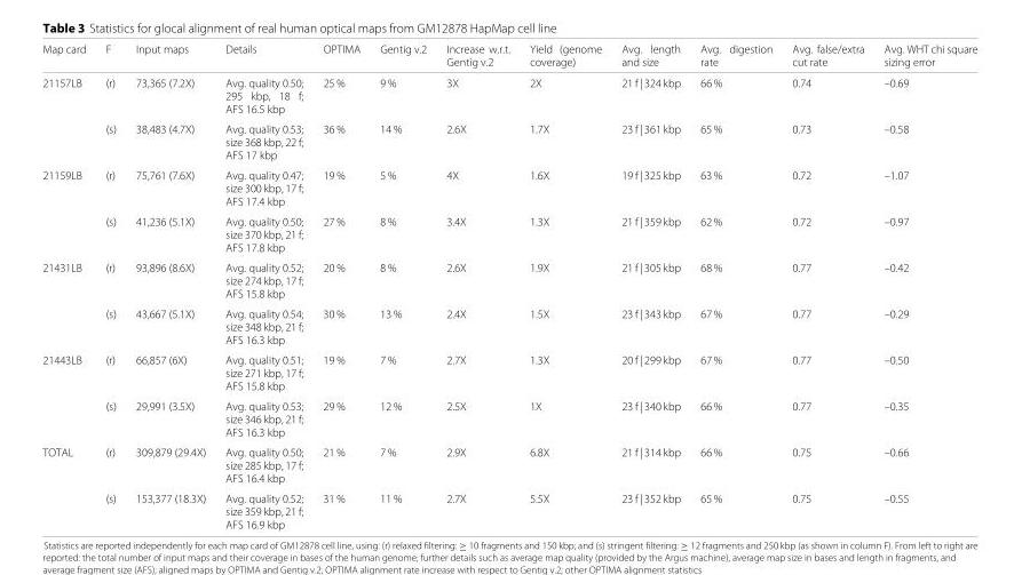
<table><thead><tr><td>Map card</td><td>F</td><td>Input maps</td><td>Details</td><td>OPTIMA</td><td>Gentig v.2</td><td>Increase w.r.t. Gentig v.2</td><td>Yield (genome coverage)</td><td>Avg. length and size</td><td>Avg. digestion rate</td><td>Avg. false/extra cut rate</td><td>Avg. WHT chi square sizing error</td></tr></thead><tbody><tr><td rowspan="2">21157LB</td><td>(r)</td><td>73,365 (7.2X)</td><td>Avg. quality 0.50; 295 kbp, 18 f; AFS 16.5 kbp</td><td>25 %</td><td>9 %</td><td>3X</td><td>2X</td><td>21 f | 324 kbp</td><td>66 %</td><td>0.74</td><td>–0.69</td></tr><tr><td>(s)</td><td>38,483 (4.7X)</td><td>Avg. quality 0.53; size 368 kbp, 22 f; AFS 17 kbp</td><td>36 %</td><td>14 %</td><td>2.6X</td><td>1.7X</td><td>23 f | 361 kbp</td><td>65 %</td><td>0.73</td><td>–0.58</td></tr><tr><td rowspan="2">21159LB</td><td>(r)</td><td>75,761 (7.6X)</td><td>Avg. quality 0.47; size 300 kbp, 17 f; AFS 17.4 kbp</td><td>19 %</td><td>5 %</td><td>4X</td><td>1.6X</td><td>19 f | 325 kbp</td><td>63 %</td><td>0.72</td><td>–1.07</td></tr><tr><td>(s)</td><td>41,236 (5.1X)</td><td>Avg. quality 0.50; size 370 kbp, 21 f; AFS 17.8 kbp</td><td>27 %</td><td>8 %</td><td>3.4X</td><td>1.3X</td><td>21 f | 359 kbp</td><td>62 %</td><td>0.72</td><td>–0.97</td></tr><tr><td rowspan="2">21431LB</td><td>(r)</td><td>93,896 (8.6X)</td><td>Avg. quality 0.52; size 274 kbp, 17 f; AFS 15.8 kbp</td><td>20 %</td><td>8 %</td><td>2.6X</td><td>1.9X</td><td>21 f | 305 kbp</td><td>68 %</td><td>0.77</td><td>–0.42</td></tr><tr><td>(s)</td><td>43,667 (5.1X)</td><td>Avg. quality 0.54; size 348 kbp, 21 f; AFS 16.3 kbp</td><td>30 %</td><td>13 %</td><td>2.4X</td><td>1.5X</td><td>23 f | 343 kbp</td><td>67 %</td><td>0.77</td><td>–0.29</td></tr><tr><td rowspan="2">21443LB</td><td>(r)</td><td>66,857 (6X)</td><td>Avg. quality 0.51; size 271 kbp, 17 f; AFS 15.8 kbp</td><td>19 %</td><td>7 %</td><td>2.7X</td><td>1.3X</td><td>20 f | 299 kbp</td><td>67 %</td><td>0.77</td><td>–0.50</td></tr><tr><td>(s)</td><td>29,991 (3.5X)</td><td>Avg. quality 0.53; size 346 kbp, 21 f; AFS 16.3 kbp</td><td>29 %</td><td>12 %</td><td>2.5X</td><td>1X</td><td>23 f | 340 kbp</td><td>66 %</td><td>0.77</td><td>–0.35</td></tr><tr><td rowspan="2">TOTAL</td><td>(r)</td><td>309,879 (29.4X)</td><td>Avg. quality 0.50; size 285 kbp, 17 f; AFS 16.4 kbp</td><td>21 %</td><td>7 %</td><td>2.9X</td><td>6.8X</td><td>21 f | 314 kbp</td><td>66 %</td><td>0.75</td><td>–0.66</td></tr><tr><td>(s)</td><td>153,377 (18.3X)</td><td>Avg. quality 0.52; size 359 kbp, 21 f; AFS 16.9 kbp</td><td>31 %</td><td>11 %</td><td>2.7X</td><td>5.5X</td><td>23 f | 352 kbp</td><td>65 %</td><td>0.75</td><td>–0.55</td></tr></tbody></table>